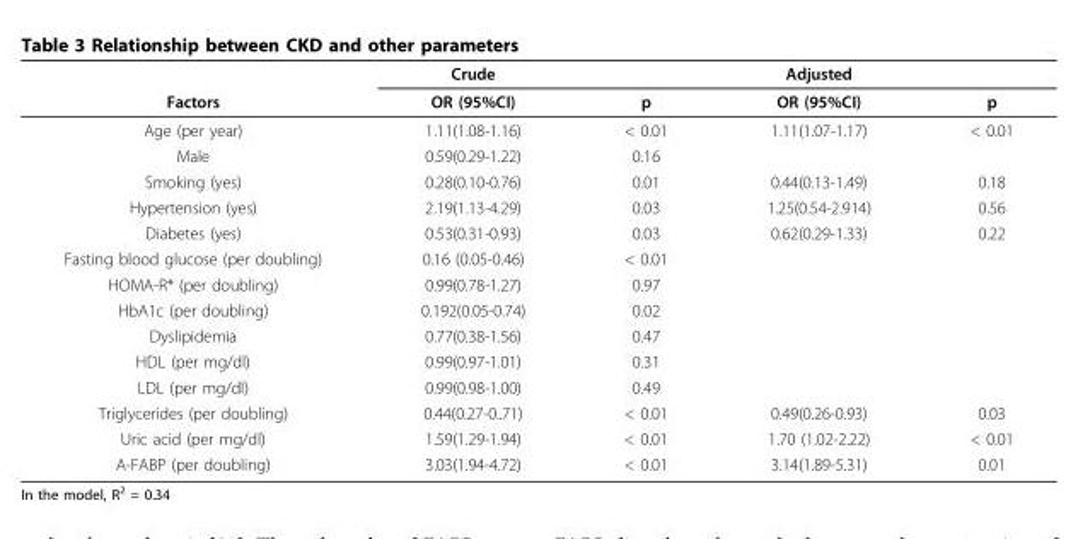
<table><thead><tr><td rowspan="2">Factors</td><td rowspan="2">Crude OR (95%CI)</td><td rowspan="2">p</td><td rowspan="2">Adjusted OR (95%CI)</td><td rowspan="2">p</td></tr><tr></tr></thead><tbody><tr><td>Age (per year)</td><td>1.11(1.08-1.16)</td><td>&lt; 0.01</td><td>1.11(1.07-1.17)</td><td>&lt; 0.01</td></tr><tr><td>Male</td><td>0.59(0.29-1.22)</td><td>0.16</td><td></td><td></td></tr><tr><td>Smoking (yes)</td><td>0.28(0.10-0.76)</td><td>0.01</td><td>0.44(0.13-1.49)</td><td>0.18</td></tr><tr><td>Hypertension (yes)</td><td>2.19(1.13-4.29)</td><td>0.03</td><td>1.25(0.54-2.914)</td><td>0.56</td></tr><tr><td>Diabetes (yes)</td><td>0.53(0.31-0.93)</td><td>0.03</td><td>0.62(0.29-1.33)</td><td>0.22</td></tr><tr><td>Fasting blood glucose (per doubling)</td><td>0.16 (0.05-0.46)</td><td>&lt; 0.01</td><td></td><td></td></tr><tr><td>HOMA-R* (per doubling)</td><td>0.99(0.78-1.27)</td><td>0.97</td><td></td><td></td></tr><tr><td>HbA1c (per doubling)</td><td>0.192(0.05-0.74)</td><td>0.02</td><td></td><td></td></tr><tr><td>Dyslipidemia</td><td>0.77(0.38-1.56)</td><td>0.47</td><td></td><td></td></tr><tr><td>HDL (per mg/dl)</td><td>0.99(0.97-1.01)</td><td>0.31</td><td></td><td></td></tr><tr><td>LDL (per mg/dl)</td><td>0.99(0.98-1.00)</td><td>0.49</td><td></td><td></td></tr><tr><td>Triglycerides (per doubling)</td><td>0.44(0.27-0..71)</td><td>&lt; 0.01</td><td>0.49(0.26-0.93)</td><td>0.03</td></tr><tr><td>Uric acid (per mg/dl)</td><td>1.59(1.29-1.94)</td><td>&lt; 0.01</td><td>1.70 (1.02-2.22)</td><td>&lt; 0.01</td></tr><tr><td>A-FABP (per doubling)</td><td>3.03(1.94-4.72)</td><td>&lt; 0.01</td><td>3.14(1.89-5.31)</td><td>0.01</td></tr></tbody></table>